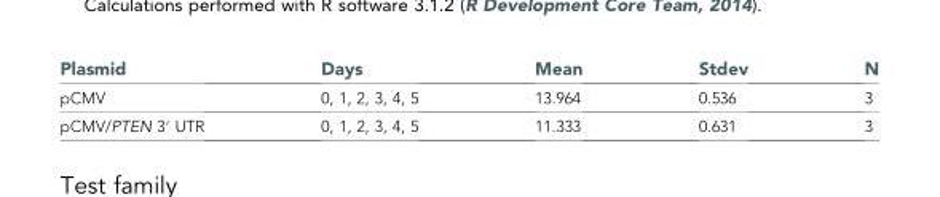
<table><thead><tr><td>Plasmid</td><td>Days</td><td>Mean</td><td>Stdev</td><td>N</td></tr></thead><tbody><tr><td>pCMV</td><td>0, 1, 2, 3, 4, 5</td><td>13.964</td><td>0.536</td><td>3</td></tr><tr><td>pCMV/PTEN 3′ UTR</td><td>0, 1, 2, 3, 4, 5</td><td>11.333</td><td>0.631</td><td>3</td></tr></tbody></table>